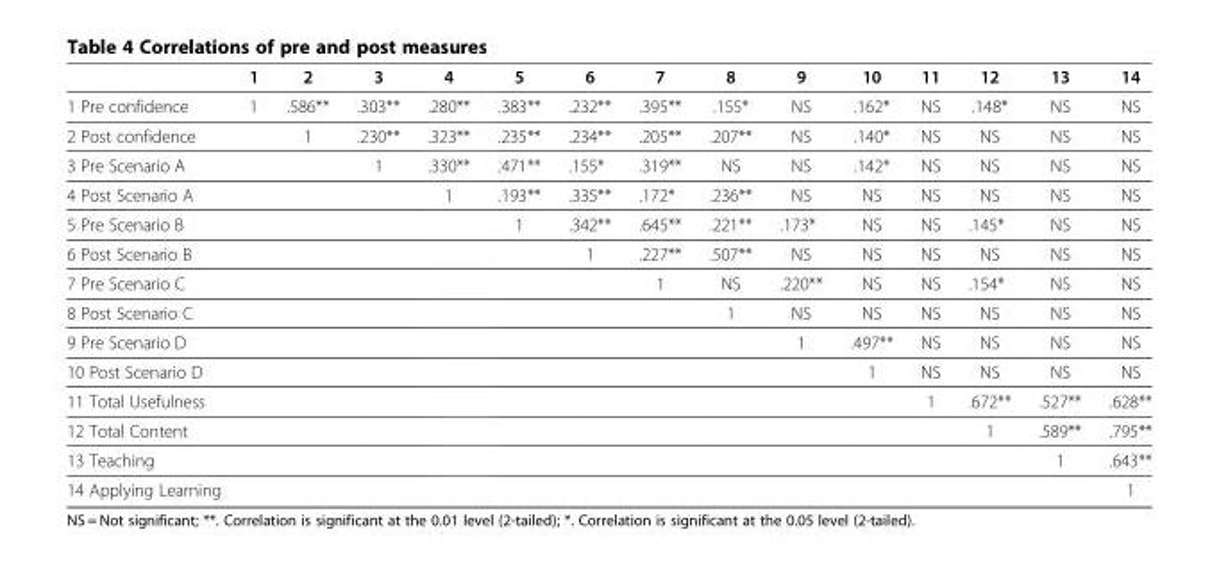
<table><thead><tr><td></td><td>1</td><td>2</td><td>3</td><td>4</td><td>5</td><td>6</td><td>7</td><td>8</td><td>9</td><td>10</td><td>11</td><td>12</td><td>13</td><td>14</td></tr></thead><tbody><tr><td>1 Pre confidence</td><td>1</td><td>.586**</td><td>.303**</td><td>.280**</td><td>.383**</td><td>.232**</td><td>.395**</td><td>.155*</td><td>NS</td><td>.162*</td><td>NS</td><td>.148*</td><td>NS</td><td>NS</td></tr><tr><td>2 Post confidence</td><td></td><td>1</td><td>.230**</td><td>.323**</td><td>.235**</td><td>.234**</td><td>.205**</td><td>.207**</td><td>NS</td><td>.140*</td><td>NS</td><td>NS</td><td>NS</td><td>NS</td></tr><tr><td>3 Pre Scenario A</td><td></td><td></td><td>1</td><td>.330**</td><td>.471**</td><td>.155*</td><td>.319**</td><td>NS</td><td>NS</td><td>.142*</td><td>NS</td><td>NS</td><td>NS</td><td>NS</td></tr><tr><td>4 Post Scenario A</td><td></td><td></td><td></td><td>1</td><td>.193**</td><td>.335**</td><td>.172*</td><td>.236**</td><td>NS</td><td>NS</td><td>NS</td><td>NS</td><td>NS</td><td>NS</td></tr><tr><td>5 Pre Scenario B</td><td></td><td></td><td></td><td></td><td>1</td><td>.342**</td><td>.645**</td><td>.221**</td><td>.173*</td><td>NS</td><td>NS</td><td>.145*</td><td>NS</td><td>NS</td></tr><tr><td>6 Post Scenario B</td><td></td><td></td><td></td><td></td><td></td><td>1</td><td>.227**</td><td>.507**</td><td>NS</td><td>NS</td><td>NS</td><td>NS</td><td>NS</td><td>NS</td></tr><tr><td>7 Pre Scenario C</td><td></td><td></td><td></td><td></td><td></td><td></td><td>1</td><td>NS</td><td>.220**</td><td>NS</td><td>NS</td><td>.154*</td><td>NS</td><td>NS</td></tr><tr><td>8 Post Scenario C</td><td></td><td></td><td></td><td></td><td></td><td></td><td></td><td>1</td><td>NS</td><td>NS</td><td>NS</td><td>NS</td><td>NS</td><td>NS</td></tr><tr><td>9 Pre Scenario D</td><td></td><td></td><td></td><td></td><td></td><td></td><td></td><td></td><td>1</td><td>.497**</td><td>NS</td><td>NS</td><td>NS</td><td>NS</td></tr><tr><td>10 Post Scenario D</td><td></td><td></td><td></td><td></td><td></td><td></td><td></td><td></td><td></td><td>1</td><td>NS</td><td>NS</td><td>NS</td><td>NS</td></tr><tr><td>11 Total Usefulness</td><td></td><td></td><td></td><td></td><td></td><td></td><td></td><td></td><td></td><td></td><td>1</td><td>.672**</td><td>.527**</td><td>.628**</td></tr><tr><td>12 Total Content</td><td></td><td></td><td></td><td></td><td></td><td></td><td></td><td></td><td></td><td></td><td></td><td>1</td><td>.589**</td><td>.795**</td></tr><tr><td>13 Teaching</td><td></td><td></td><td></td><td></td><td></td><td></td><td></td><td></td><td></td><td></td><td></td><td></td><td>1</td><td>.643**</td></tr><tr><td>14 Applying Learning</td><td></td><td></td><td></td><td></td><td></td><td></td><td></td><td></td><td></td><td></td><td></td><td></td><td></td><td>1</td></tr></tbody></table>